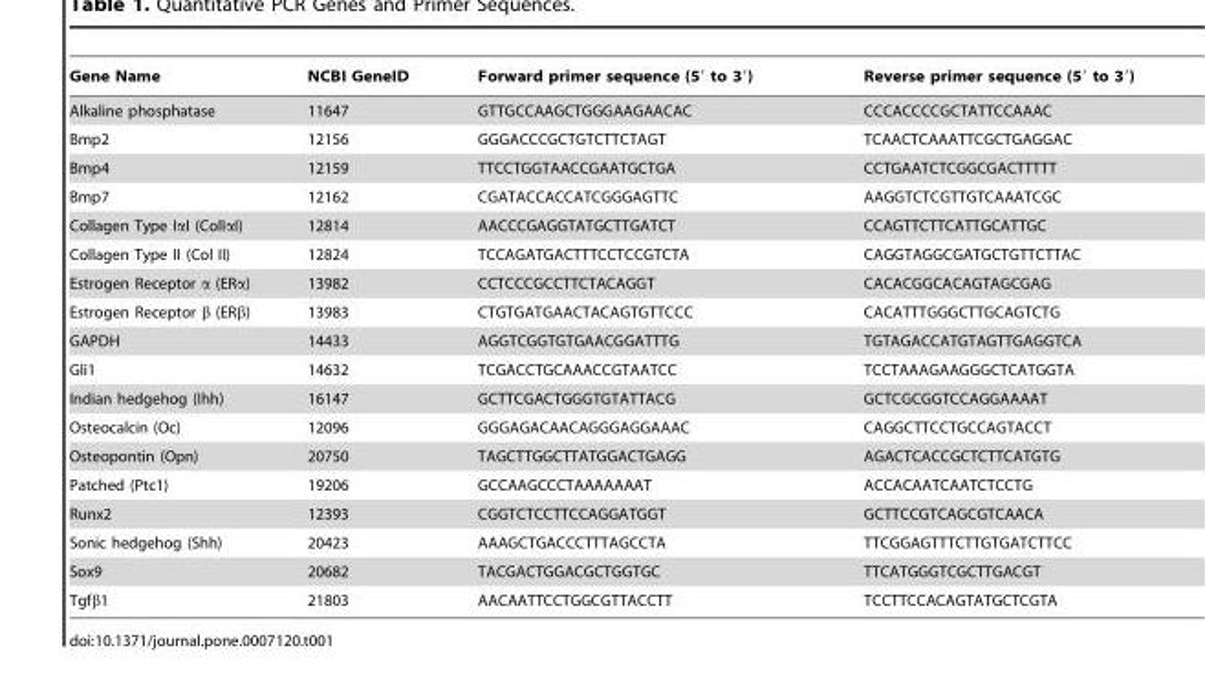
<table><thead><tr><td>Gene Name</td><td>NCBI GeneID</td><td>Forward primer sequence (5′ to 3′)</td><td>Reverse primer sequence (5′ to 3′)</td></tr></thead><tbody><tr><td>Alkaline phosphatase</td><td>11647</td><td>GTTGCCAAGCTGGGAAGAACAC</td><td>CCCACCCCGCTATTCCAAAC</td></tr><tr><td>Bmp2</td><td>12156</td><td>GGGACCCGCTGTCTTCTAGT</td><td>TCAACTCAAATTCGCTGAGGAC</td></tr><tr><td>Bmp4</td><td>12159</td><td>TTCCTGGTAACCGAATGCTGA</td><td>CCTGAATCTCGGCGACTTTTT</td></tr><tr><td>Bmp7</td><td>12162</td><td>CGATACCACCATCGGGAGTTC</td><td>AAGGTCTCGTTGTCAAATCGC</td></tr><tr><td>Collagen Type IαI (ColIαI)</td><td>12814</td><td>AACCCGAGGTATGCTTGATCT</td><td>CCAGTTCTTCATTGCATTGC</td></tr><tr><td>Collagen Type II (Col II)</td><td>12824</td><td>TCCAGATGACTTTCCTCCGTCTA</td><td>CAGGTAGGCGATGCTGTTCTTAC</td></tr><tr><td>Estrogen Receptor α (ERα)</td><td>13982</td><td>CCTCCCGCCTTCTACAGGT</td><td>CACACGGCACAGTAGCGAG</td></tr><tr><td>Estrogen Receptor β (ERβ)</td><td>13983</td><td>CTGTGATGAACTACAGTGTTCCC</td><td>CACATTTGGGCTTGCAGTCTG</td></tr><tr><td>GAPDH</td><td>14433</td><td>AGGTCGGTGTGAACGGATTTG</td><td>TGTAGACCATGTAGTTGAGGTCA</td></tr><tr><td>Gli1</td><td>14632</td><td>TCGACCTGCAAACCGTAATCC</td><td>TCCTAAAGAAGGGCTCATGGTA</td></tr><tr><td>Indian hedgehog (Ihh)</td><td>16147</td><td>GCTTCGACTGGGTGTATTACG</td><td>GCTCGCGGTCCAGGAAAAT</td></tr><tr><td>Osteocalcin (Oc)</td><td>12096</td><td>GGGAGACAACAGGGAGGAAAC</td><td>CAGGCTTCCTGCCAGTACCT</td></tr><tr><td>Osteopontin (Opn)</td><td>20750</td><td>TAGCTTGGCTTATGGACTGAGG</td><td>AGACTCACCGCTCTTCATGTG</td></tr><tr><td>Patched (Ptc1)</td><td>19206</td><td>GCCAAGCCCTAAAAAAAT</td><td>ACCACAATCAATCTCCTG</td></tr><tr><td>Runx2</td><td>12393</td><td>CGGTCTCCTTCCAGGATGGT</td><td>GCTTCCGTCAGCGTCAACA</td></tr><tr><td>Sonic hedgehog (Shh)</td><td>20423</td><td>AAAGCTGACCCTTTAGCCTA</td><td>TTCGGAGTTTCTTGTGATCTTCC</td></tr><tr><td>Sox9</td><td>20682</td><td>TACGACTGGACGCTGGTGC</td><td>TTCATGGGTCGCTTGACGT</td></tr><tr><td>Tgfβ1</td><td>21803</td><td>AACAATTCCTGGCGTTACCTT</td><td>TCCTTCCACAGTATGCTCGTA</td></tr></tbody></table>